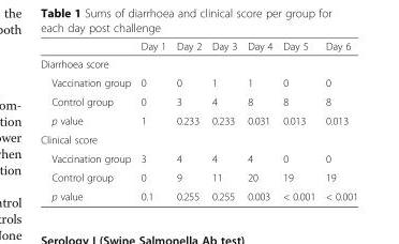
<table><thead><tr><td></td><td>Day 1</td><td>Day 2</td><td>Day 3</td><td>Day 4</td><td>Day 5</td><td>Day 6</td></tr></thead><tbody><tr><td colspan="7">Diarrhoea score</td></tr><tr><td>Vaccination group</td><td>0</td><td>0</td><td>1</td><td>1</td><td>0</td><td>0</td></tr><tr><td>Control group</td><td>0</td><td>3</td><td>4</td><td>8</td><td>8</td><td>8</td></tr><tr><td>p value</td><td>1</td><td>0.233</td><td>0.233</td><td>0.031</td><td>0.013</td><td>0.013</td></tr><tr><td colspan="7">Clinical score</td></tr><tr><td>Vaccination group</td><td>3</td><td>4</td><td>4</td><td>4</td><td>0</td><td>0</td></tr><tr><td>Control group</td><td>0</td><td>9</td><td>11</td><td>20</td><td>19</td><td>19</td></tr><tr><td>p value</td><td>0.1</td><td>0.255</td><td>0.255</td><td>0.003</td><td>&lt; 0.001</td><td>&lt; 0.001</td></tr></tbody></table>